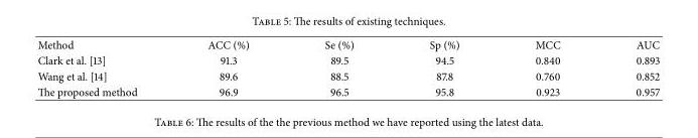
<table><tbody><tr><td>Method</td><td>ACC (%)</td><td>Se (%)</td><td>Sp (%)</td><td>MCC</td><td>AUC</td></tr><tr><td>Clark et al. [13]</td><td>91.3</td><td>89.5</td><td>94.5</td><td>0.840</td><td>0.893</td></tr><tr><td>Wang et al. [14]</td><td>89.6</td><td>88.5</td><td>87.8</td><td>0.760</td><td>0.852</td></tr><tr><td>The proposed method</td><td>96.9</td><td>96.5</td><td>95.8</td><td>0.923</td><td>0.957</td></tr></tbody></table>